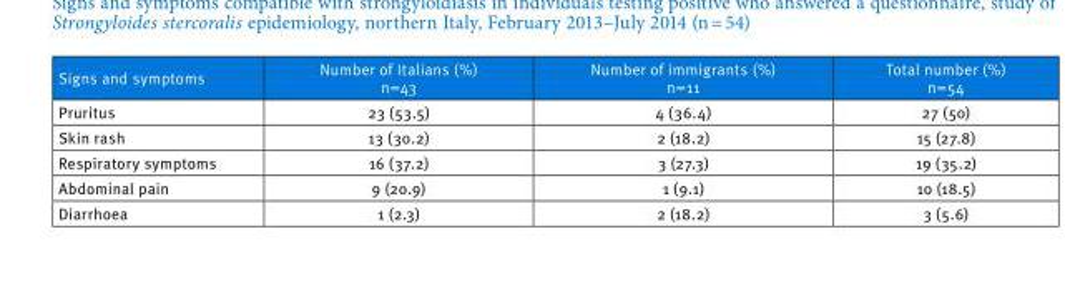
<table><thead><tr><td>Signs and symptoms</td><td>Number of Italians (%) n=43</td><td>Number of immigrants (%) n=11</td><td>Total number (%) n=54</td></tr></thead><tbody><tr><td>Pruritus</td><td>23 (53.5)</td><td>4 (36.4)</td><td>27 (50)</td></tr><tr><td>Skin rash</td><td>13 (30.2)</td><td>2 (18.2)</td><td>15 (27.8)</td></tr><tr><td>Respiratory symptoms</td><td>16 (37.2)</td><td>3 (27.3)</td><td>19 (35.2)</td></tr><tr><td>Abdominal pain</td><td>9 (20.9)</td><td>1 (9.1)</td><td>10 (18.5)</td></tr><tr><td>Diarrhoea</td><td>1 (2.3)</td><td>2 (18.2)</td><td>3 (5.6)</td></tr></tbody></table>